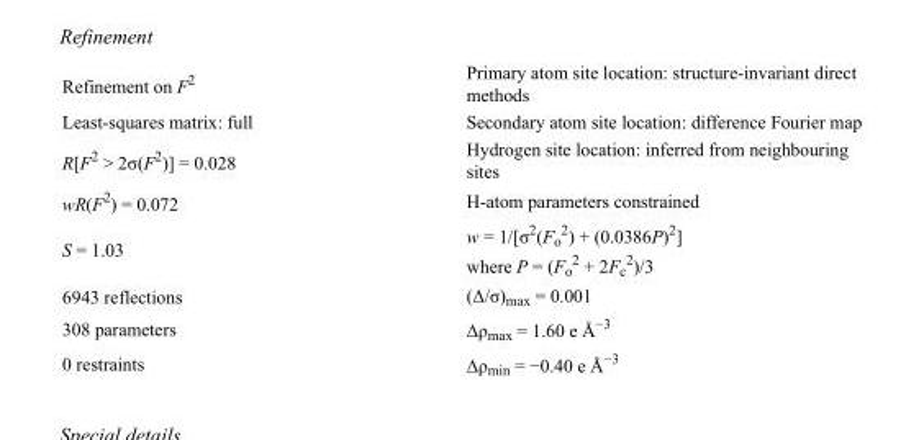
<table><tbody><tr><td>Refinement on F<sup>2</sup></td><td>Primary atom site location: structure-invariant direct methods</td></tr><tr><td>Least-squares matrix: full</td><td>Secondary atom site location: difference Fourier map</td></tr><tr><td>R[F<sup>2</sup> &gt; 2σ(F<sup>2</sup>)] = 0.028</td><td>Hydrogen site location: inferred from neighbouring sites</td></tr><tr><td>wR(F<sup>2</sup>) = 0.072</td><td>H-atom parameters constrained</td></tr><tr><td>S = 1.03</td><td>w = 1/[σ<sup>2</sup>(F<sub>o</sub> <sup>2</sup>) + (0.0386P)<sup>2</sup>] where P = (F<sub>o</sub> <sup>2</sup> + 2F<sub>c</sub> <sup>2</sup>)/3</td></tr><tr><td>6943 reflections</td><td>(Δ/σ)<sub>max</sub> = 0.001</td></tr><tr><td>308 parameters</td><td>Δρ<sub>max</sub> = 1.60 e Å<sup>−3</sup></td></tr><tr><td>0 restraints</td><td>Δρ<sub>min</sub> = −0.40 e Å<sup>−3</sup></td></tr></tbody></table>